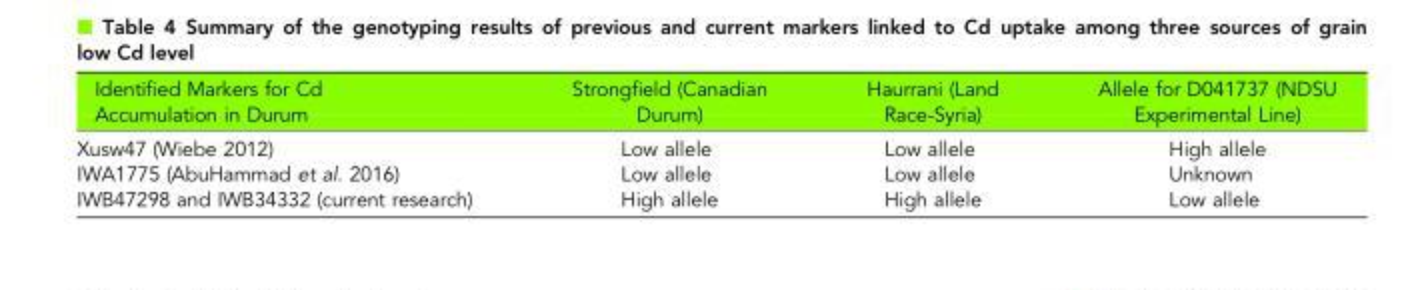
<table><thead><tr><td>Identified Markers for Cd Accumulation in Durum</td><td>Strongfield (Canadian Durum)</td><td>Haurrani (Land Race-Syria)</td><td>Allele for D041737 (NDSU Experimental Line)</td></tr></thead><tbody><tr><td>Xusw47 (Wiebe 2012)</td><td>Low allele</td><td>Low allele</td><td>High allele</td></tr><tr><td>IWA1775 (AbuHammad et al. 2016)</td><td>Low allele</td><td>Low allele</td><td>Unknown</td></tr><tr><td>IWB47298 and IWB34332 (current research)</td><td>High allele</td><td>High allele</td><td>Low allele</td></tr></tbody></table>